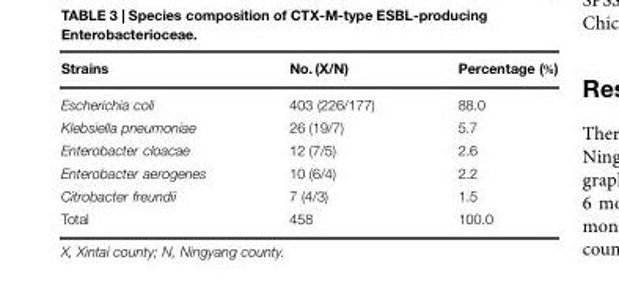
<table><thead><tr><td>Strains</td><td>No. (X/N)</td><td>Percentage (%)</td></tr></thead><tbody><tr><td>Escherichia coli</td><td>403 (226/177)</td><td>88.0</td></tr><tr><td>Klebsiella pneumoniae</td><td>26 (19/7)</td><td>5.7</td></tr><tr><td>Enterobacter cloacae</td><td>12 (7/5)</td><td>2.6</td></tr><tr><td>Enterobacter aerogenes</td><td>10 (6/4)</td><td>2.2</td></tr><tr><td>Citrobacter freundii</td><td>7 (4/3)</td><td>1.5</td></tr><tr><td>Total</td><td>458</td><td>100.0</td></tr></tbody></table>